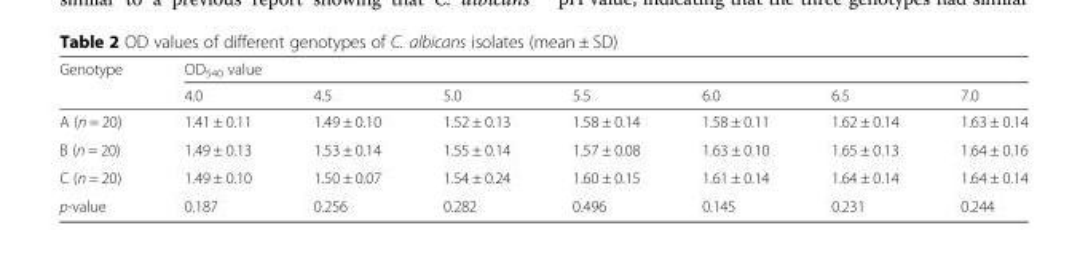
<table><thead><tr><td rowspan="2">Genotype</td><td colspan="7">OD<sub>540</sub> value</td></tr><tr><td>4.0</td><td>4.5</td><td>5.0</td><td>5.5</td><td>6.0</td><td>6.5</td><td>7.0</td></tr></thead><tbody><tr><td>A (n = 20)</td><td>1.41 ± 0.11</td><td>1.49 ± 0.10</td><td>1.52 ± 0.13</td><td>1.58 ± 0.14</td><td>1.58 ± 0.11</td><td>1.62 ± 0.14</td><td>1.63 ± 0.14</td></tr><tr><td>B (n = 20)</td><td>1.49 ± 0.13</td><td>1.53 ± 0.14</td><td>1.55 ± 0.14</td><td>1.57 ± 0.08</td><td>1.63 ± 0.10</td><td>1.65 ± 0.13</td><td>1.64 ± 0.16</td></tr><tr><td>C (n = 20)</td><td>1.49 ± 0.10</td><td>1.50 ± 0.07</td><td>1.54 ± 0.24</td><td>1.60 ± 0.15</td><td>1.61 ± 0.14</td><td>1.64 ± 0.14</td><td>1.64 ± 0.14</td></tr><tr><td>p-value</td><td>0.187</td><td>0.256</td><td>0.282</td><td>0.496</td><td>0.145</td><td>0.231</td><td>0.244</td></tr></tbody></table>